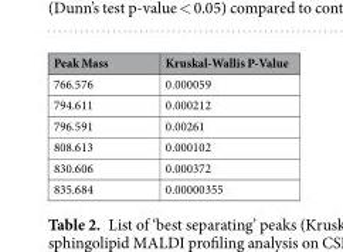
<table><thead><tr><td>Peak Mass</td><td>Kruskal-Wallis P-Value</td></tr></thead><tbody><tr><td>766.576</td><td>0.000059</td></tr><tr><td>794.611</td><td>0.000212</td></tr><tr><td>796.591</td><td>0.00261</td></tr><tr><td>808.613</td><td>0.000102</td></tr><tr><td>830.606</td><td>0.000372</td></tr><tr><td>835.684</td><td>0.00000355</td></tr></tbody></table>